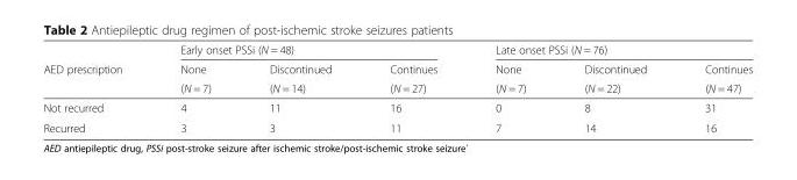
<table><thead><tr><td rowspan="3">AED prescription</td><td colspan="3">Early onset PSSi (N = 48)</td><td colspan="3">Late onset PSSi (N = 76)</td></tr><tr><td rowspan="2">None (N = 7)</td><td rowspan="2">Discontinued (N = 14)</td><td rowspan="2">Continues (N = 27)</td><td rowspan="2">None (N = 7)</td><td rowspan="2">Discontinued (N = 22)</td><td rowspan="2">Continues (N = 47)</td></tr><tr></tr></thead><tbody><tr><td>Not recurred</td><td>4</td><td>11</td><td>16</td><td>0</td><td>8</td><td>31</td></tr><tr><td>Recurred</td><td>3</td><td>3</td><td>11</td><td>7</td><td>14</td><td>16</td></tr></tbody></table>